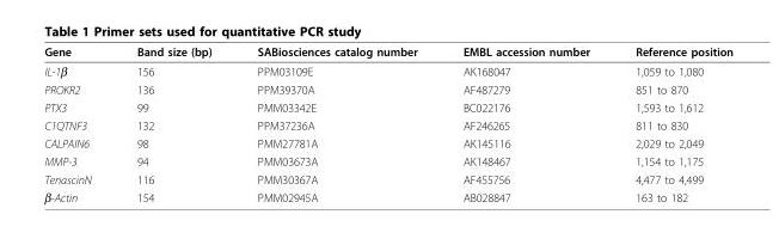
<table><thead><tr><td>Gene</td><td>Band size (bp)</td><td>SABiosciences catalog number</td><td>EMBL accession number</td><td>Reference position</td></tr></thead><tbody><tr><td>IL-1β</td><td>156</td><td>PPM03109E</td><td>AK168047</td><td>1,059 to 1,080</td></tr><tr><td>PROKR2</td><td>136</td><td>PPM39370A</td><td>AF487279</td><td>851 to 870</td></tr><tr><td>PTX3</td><td>99</td><td>PMM03342E</td><td>BC022176</td><td>1,593 to 1,612</td></tr><tr><td>C1QTNF3</td><td>132</td><td>PPM37236A</td><td>AF246265</td><td>811 to 830</td></tr><tr><td>CALPAIN6</td><td>98</td><td>PMM27781A</td><td>AK145116</td><td>2,029 to 2,049</td></tr><tr><td>MMP-3</td><td>94</td><td>PMM03673A</td><td>AK148467</td><td>1,154 to 1,175</td></tr><tr><td>TenascinN</td><td>116</td><td>PMM30367A</td><td>AF455756</td><td>4,477 to 4,499</td></tr><tr><td>β-Actin</td><td>154</td><td>PMM02945A</td><td>AB028847</td><td>163 to 182</td></tr></tbody></table>